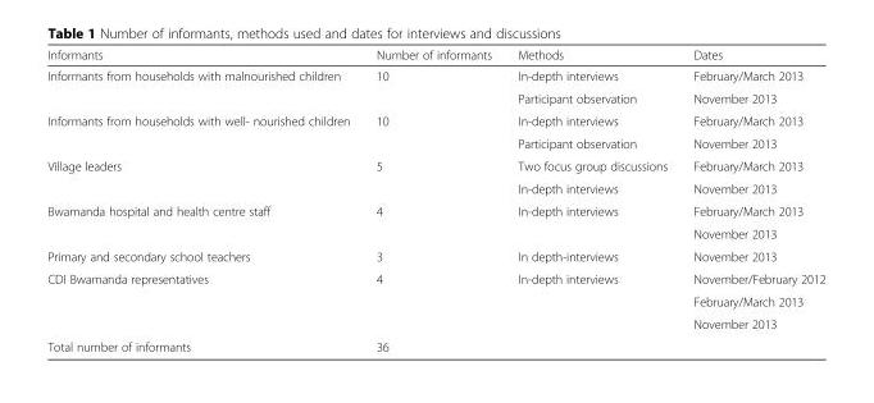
<table><thead><tr><td>Informants</td><td>Number of informants</td><td>Methods</td><td>Dates</td></tr></thead><tbody><tr><td rowspan="2">Informants from households with malnourished children</td><td rowspan="2">10</td><td>In-depth interviews</td><td>February/March 2013</td></tr><tr><td>Participant observation</td><td>November 2013</td></tr><tr><td rowspan="2">Informants from households with well- nourished children</td><td rowspan="2">10</td><td>In-depth interviews</td><td>February/March 2013</td></tr><tr><td>Participant observation</td><td>November 2013</td></tr><tr><td rowspan="2">Village leaders</td><td rowspan="2">5</td><td>Two focus group discussions</td><td>February/March 2013</td></tr><tr><td>In-depth interviews</td><td>November 2013</td></tr><tr><td rowspan="2">Bwamanda hospital and health centre staff</td><td rowspan="2">4</td><td rowspan="2">In-depth interviews</td><td>February/March 2013</td></tr><tr><td>November 2013</td></tr><tr><td>Primary and secondary school teachers</td><td>3</td><td>In depth-interviews</td><td>November 2013</td></tr><tr><td rowspan="3">CDI Bwamanda representatives</td><td rowspan="3">4</td><td rowspan="3">In-depth interviews</td><td>November/February 2012</td></tr><tr><td>February/March 2013</td></tr><tr><td>November 2013</td></tr><tr><td>Total number of informants</td><td>36</td><td colspan="2"></td></tr></tbody></table>